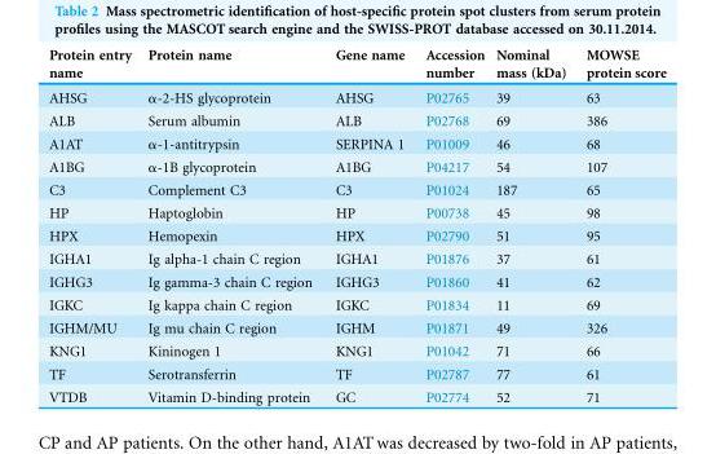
<table><thead><tr><td>Protein entry name</td><td>Protein name</td><td>Gene name</td><td>Accession number</td><td>Nominal mass (kDa)</td><td>MOWSE protein score</td></tr></thead><tbody><tr><td>AHSG</td><td>α-2-HS glycoprotein</td><td>AHSG</td><td>P02765</td><td>39</td><td>63</td></tr><tr><td>ALB</td><td>Serum albumin</td><td>ALB</td><td>P02768</td><td>69</td><td>386</td></tr><tr><td>A1AT</td><td>α-1-antitrypsin</td><td>SERPINA 1</td><td>P01009</td><td>46</td><td>68</td></tr><tr><td>A1BG</td><td>α-1B glycoprotein</td><td>A1BG</td><td>P04217</td><td>54</td><td>107</td></tr><tr><td>C3</td><td>Complement C3</td><td>C3</td><td>P01024</td><td>187</td><td>65</td></tr><tr><td>HP</td><td>Haptoglobin</td><td>HP</td><td>P00738</td><td>45</td><td>98</td></tr><tr><td>HPX</td><td>Hemopexin</td><td>HPX</td><td>P02790</td><td>51</td><td>95</td></tr><tr><td>IGHA1</td><td>Ig alpha-1 chain C region</td><td>IGHA1</td><td>P01876</td><td>37</td><td>61</td></tr><tr><td>IGHG3</td><td>Ig gamma-3 chain C region</td><td>IGHG3</td><td>P01860</td><td>41</td><td>62</td></tr><tr><td>IGKC</td><td>Ig kappa chain C region</td><td>IGKC</td><td>P01834</td><td>11</td><td>69</td></tr><tr><td>IGHM/MU</td><td>Ig mu chain C region</td><td>IGHM</td><td>P01871</td><td>49</td><td>326</td></tr><tr><td>KNG1</td><td>Kininogen 1</td><td>KNG1</td><td>P01042</td><td>71</td><td>66</td></tr><tr><td>TF</td><td>Serotransferrin</td><td>TF</td><td>P02787</td><td>77</td><td>61</td></tr><tr><td>VTDB</td><td>Vitamin D-binding protein</td><td>GC</td><td>P02774</td><td>52</td><td>71</td></tr></tbody></table>